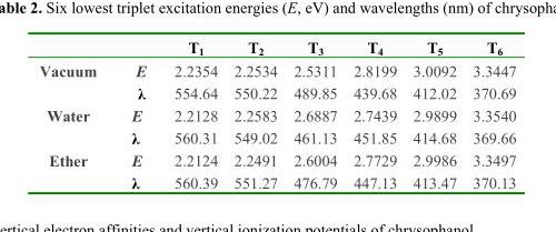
<table><thead><tr><td></td><td></td><td>T<sub>1</sub></td><td>T<sub>2</sub></td><td>T<sub>3</sub></td><td>T<sub>4</sub></td><td>T<sub>5</sub></td><td>T<sub>6</sub></td></tr></thead><tbody><tr><td rowspan="2">Vacuum</td><td>E</td><td>2.2354</td><td>2.2534</td><td>2.5311</td><td>2.8199</td><td>3.0092</td><td>3.3447</td></tr><tr><td>λ</td><td>554.64</td><td>550.22</td><td>489.85</td><td>439.68</td><td>412.02</td><td>370.69</td></tr><tr><td rowspan="2">Water</td><td>E</td><td>2.2128</td><td>2.2583</td><td>2.6887</td><td>2.7439</td><td>2.9899</td><td>3.3540</td></tr><tr><td>λ</td><td>560.31</td><td>549.02</td><td>461.13</td><td>451.85</td><td>414.68</td><td>369.66</td></tr><tr><td rowspan="2">Ether</td><td>E</td><td>2.2124</td><td>2.2491</td><td>2.6004</td><td>2.7729</td><td>2.9986</td><td>3.3497</td></tr><tr><td>λ</td><td>560.39</td><td>551.27</td><td>476.79</td><td>447.13</td><td>413.47</td><td>370.13</td></tr></tbody></table>